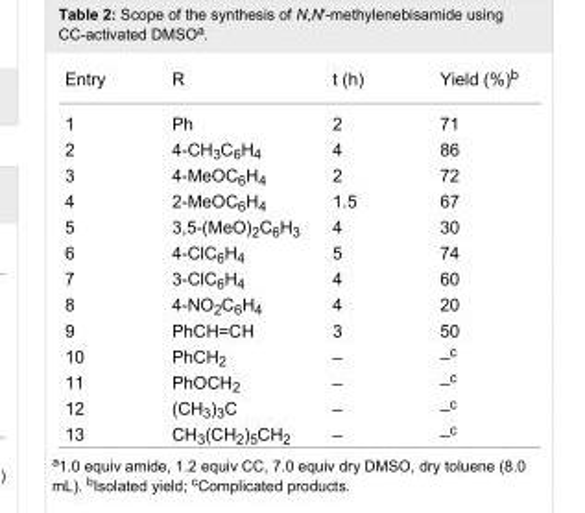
<table><tbody><tr><td>Entry</td><td>R</td><td>t (h)</td><td>Yield (%)<sup>b</sup></td></tr><tr><td>1</td><td>Ph</td><td>2</td><td>71</td></tr><tr><td>2</td><td>4-CH<sub>3</sub>C<sub>6</sub>H<sub>4</sub></td><td>4</td><td>86</td></tr><tr><td>3</td><td>4-MeOC<sub>6</sub>H<sub>4</sub></td><td>2</td><td>72</td></tr><tr><td>4</td><td>2-MeOC<sub>6</sub>H<sub>4</sub></td><td>1.5</td><td>67</td></tr><tr><td>5</td><td>3,5-(MeO)<sub>2</sub>C<sub>6</sub>H<sub>3</sub></td><td>4</td><td>30</td></tr><tr><td>6</td><td>4-ClC<sub>6</sub>H<sub>4</sub></td><td>5</td><td>74</td></tr><tr><td>7</td><td>3-ClC<sub>6</sub>H<sub>4</sub></td><td>4</td><td>60</td></tr><tr><td>8</td><td>4-NO<sub>2</sub>C<sub>6</sub>H<sub>4</sub></td><td>4</td><td>20</td></tr><tr><td>9</td><td>PhCH=CH</td><td>3</td><td>50</td></tr><tr><td>10</td><td>PhCH<sub>2</sub></td><td>–</td><td>–<sup>c</sup></td></tr><tr><td>11</td><td>PhOCH<sub>2</sub></td><td>–</td><td>–<sup>c</sup></td></tr><tr><td>12</td><td>(CH<sub>3</sub>)<sub>3</sub>C</td><td>–</td><td>–<sup>c</sup></td></tr><tr><td>13</td><td>CH<sub>3</sub>(CH<sub>2</sub>)<sub>5</sub>CH<sub>2</sub></td><td>–</td><td>–<sup>c</sup></td></tr></tbody></table>